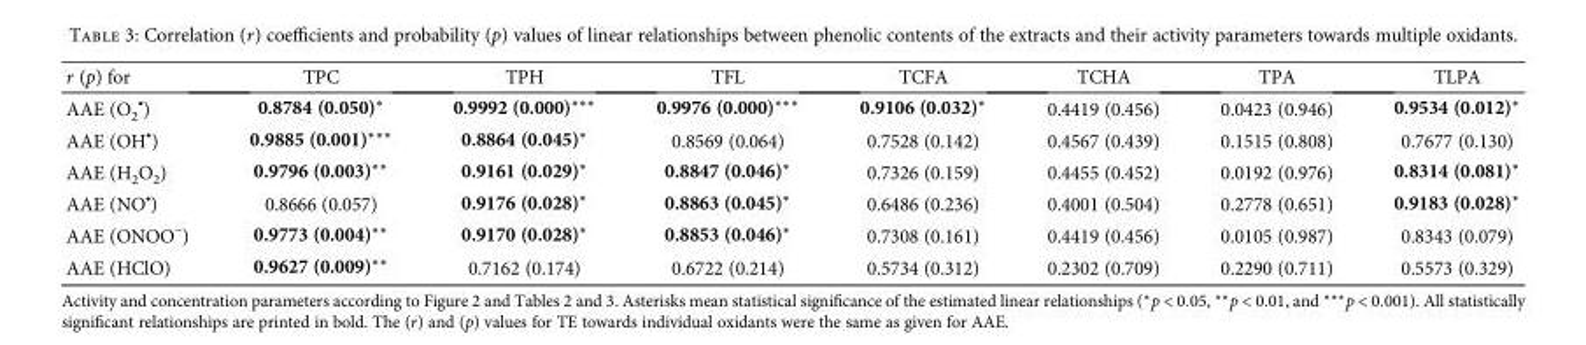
<table><thead><tr><td>r (p) for</td><td>TPC</td><td>TPH</td><td>TFL</td><td>TCFA</td><td>TCHA</td><td>TPA</td><td>TLPA</td></tr></thead><tbody><tr><td>AAE (O<sub>2</sub> <sup>∙</sup>)</td><td>0.8784 (0.050)∗</td><td>0.9992 (0.000)∗∗∗</td><td>0.9976 (0.000)∗∗∗</td><td>0.9106 (0.032)∗</td><td>0.4419 (0.456)</td><td>0.0423 (0.946)</td><td>0.9534 (0.012)∗</td></tr><tr><td>AAE (OH<sup>∙</sup>)</td><td>0.9885 (0.001)∗∗∗</td><td>0.8864 (0.045)∗</td><td>0.8569 (0.064)</td><td>0.7528 (0.142)</td><td>0.4567 (0.439)</td><td>0.1515 (0.808)</td><td>0.7677 (0.130)</td></tr><tr><td>AAE (H<sub>2</sub>O<sub>2</sub>)</td><td>0.9796 (0.003)∗∗</td><td>0.9161 (0.029)∗</td><td>0.8847 (0.046)∗</td><td>0.7326 (0.159)</td><td>0.4455 (0.452)</td><td>0.0192 (0.976)</td><td>0.8314 (0.081)∗</td></tr><tr><td>AAE (NO<sup>∙</sup>)</td><td>0.8666 (0.057)</td><td>0.9176 (0.028)∗</td><td>0.8863 (0.045)∗</td><td>0.6486 (0.236)</td><td>0.4001 (0.504)</td><td>0.2778 (0.651)</td><td>0.9183 (0.028)∗</td></tr><tr><td>AAE (ONOO<sup>–</sup>)</td><td>0.9773 (0.004)∗∗</td><td>0.9170 (0.028)∗</td><td>0.8853 (0.046)∗</td><td>0.7308 (0.161)</td><td>0.4419 (0.456)</td><td>0.0105 (0.987)</td><td>0.8343 (0.079)</td></tr><tr><td>AAE (HClO)</td><td>0.9627 (0.009)∗∗</td><td>0.7162 (0.174)</td><td>0.6722 (0.214)</td><td>0.5734 (0.312)</td><td>0.2302 (0.709)</td><td>0.2290 (0.711)</td><td>0.5573 (0.329)</td></tr></tbody></table>